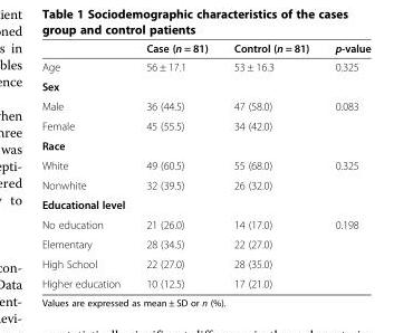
<table><thead><tr><td></td><td>Case (n = 81)</td><td>Control (n = 81)</td><td>p-value</td></tr></thead><tbody><tr><td>Age</td><td>56 ± 17.1</td><td>53 ± 16.3</td><td>0.325</td></tr><tr><td colspan="4">Sex</td></tr><tr><td>Male</td><td>36 (44.5)</td><td>47 (58.0)</td><td>0.083</td></tr><tr><td>Female</td><td>45 (55.5)</td><td>34 (42.0)</td><td></td></tr><tr><td colspan="4">Race</td></tr><tr><td>White</td><td>49 (60.5)</td><td>55 (68.0)</td><td>0.325</td></tr><tr><td>Nonwhite</td><td>32 (39.5)</td><td>26 (32.0)</td><td></td></tr><tr><td colspan="4">Educational level</td></tr><tr><td>No education</td><td>21 (26.0)</td><td>14 (17.0)</td><td>0.198</td></tr><tr><td>Elementary</td><td>28 (34.5)</td><td>22 (27.0)</td><td></td></tr><tr><td>High School</td><td>22 (27.0)</td><td>28 (35.0)</td><td></td></tr><tr><td>Higher education</td><td>10 (12.5)</td><td>17 (21.0)</td><td></td></tr></tbody></table>